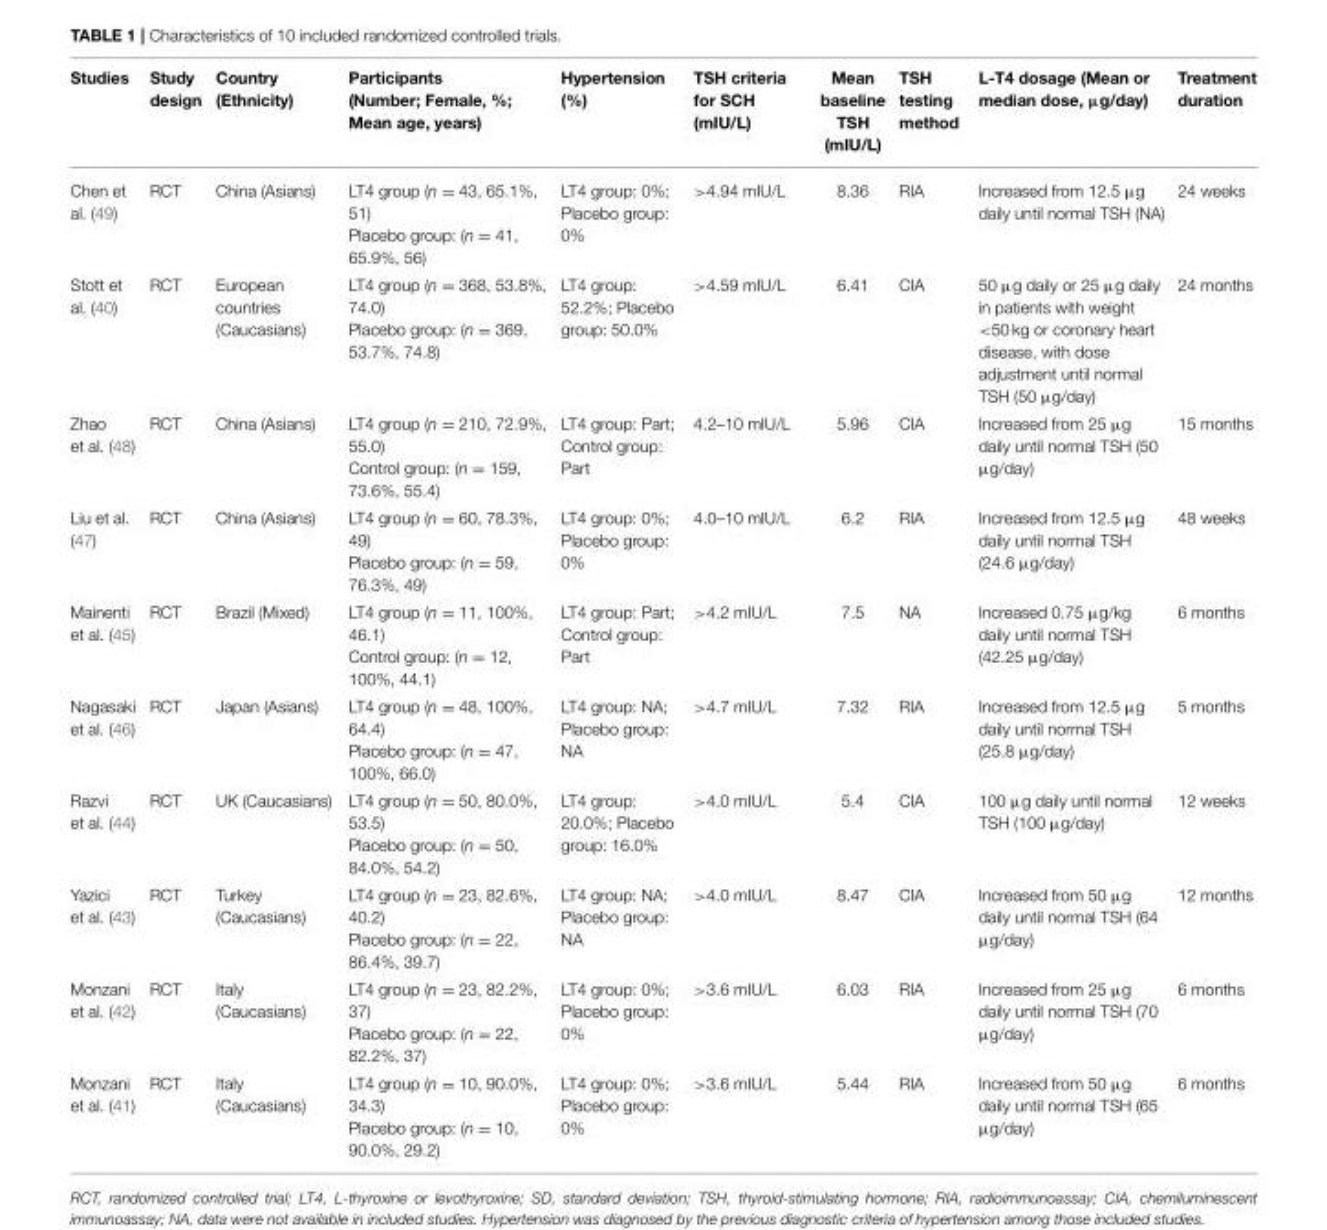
<table><thead><tr><td>Studies</td><td>Study design</td><td>Country (Ethnicity)</td><td>Participants (Number; Female, %; Mean age, years)</td><td>Hypertension (%)</td><td>TSH criteria for SCH (mIU/L)</td><td>Mean baseline TSH (mIU/L)</td><td>TSH testing method</td><td>L-T4 dosage (Mean or median dose, µg/day)</td><td>Treatment duration</td></tr></thead><tbody><tr><td>Chen et al. (49)</td><td>RCT</td><td>China (Asians)</td><td>LT4 group (n = 43, 65.1%, 51) Placebo group: (n = 41, 65.9%, 56)</td><td>LT4 group: 0%; Placebo group: 0%</td><td>&gt;4.94 mIU/L</td><td>8.36</td><td>RIA</td><td>Increased from 12.5 µg daily until normal TSH (NA)</td><td>24 weeks</td></tr><tr><td>Stott et al. (40)</td><td>RCT</td><td>European countries (Caucasians)</td><td>LT4 group (n = 368, 53.8%, 74.0) Placebo group: (n = 369, 53.7%, 74.8)</td><td>LT4 group: 52.2%; Placebo group: 50.0%</td><td>&gt;4.59 mIU/L</td><td>6.41</td><td>CIA</td><td>50 µg daily or 25 µg daily in patients with weight &lt;50 kg or coronary heart disease, with dose adjustment until normal TSH (50 µg/day)</td><td>24 months</td></tr><tr><td>Zhao et al. (48)</td><td>RCT</td><td>China (Asians)</td><td>LT4 group (n = 210, 72.9%, 55.0) Control group: (n = 159, 73.6%, 55.4)</td><td>LT4 group: Part; Control group: Part</td><td>4.2–10 mIU/L</td><td>5.96</td><td>CIA</td><td>Increased from 25 µg daily until normal TSH (50 µg/day)</td><td>15 months</td></tr><tr><td>Liu et al. (47)</td><td>RCT</td><td>China (Asians)</td><td>LT4 group (n = 60, 78.3%, 49) Placebo group: (n = 59, 76.3%, 49)</td><td>LT4 group: 0%; Placebo group: 0%</td><td>4.0–10 mIU/L</td><td>6.2</td><td>RIA</td><td>Increased from 12.5 µg daily until normal TSH (24.6 µg/day)</td><td>48 weeks</td></tr><tr><td>Mainenti et al. (45)</td><td>RCT</td><td>Brazil (Mixed)</td><td>LT4 group (n = 11, 100%, 46.1) Control group: (n = 12, 100%, 44.1)</td><td>LT4 group: Part; Control group: Part</td><td>&gt;4.2 mIU/L</td><td>7.5</td><td>NA</td><td>Increased 0.75 µg/kg daily until normal TSH (42.25 µg/day)</td><td>6 months</td></tr><tr><td>Nagasaki et al. (46)</td><td>RCT</td><td>Japan (Asians)</td><td>LT4 group (n = 48, 100%, 64.4) Placebo group: (n = 47, 100%, 66.0)</td><td>LT4 group: NA; Placebo group: NA</td><td>&gt;4.7 mIU/L</td><td>7.32</td><td>RIA</td><td>Increased from 12.5 µg daily until normal TSH (25.8 µg/day)</td><td>5 months</td></tr><tr><td>Razvi et al. (44)</td><td>RCT</td><td>UK (Caucasians)</td><td>LT4 group (n = 50, 80.0%, 53.5) Placebo group: (n = 50, 84.0%, 54.2)</td><td>LT4 group: 20.0%; Placebo group: 16.0%</td><td>&gt;4.0 mIU/L</td><td>5.4</td><td>CIA</td><td>100 µg daily until normal TSH (100 µg/day)</td><td>12 weeks</td></tr><tr><td>Yazici et al. (43)</td><td>RCT</td><td>Turkey (Caucasians)</td><td>LT4 group (n = 23, 82.6%, 40.2) Placebo group: (n = 22, 86.4%, 39.7)</td><td>LT4 group: NA; Placebo group: NA</td><td>&gt;4.0 mIU/L</td><td>8.47</td><td>CIA</td><td>Increased from 50 µg daily until normal TSH (64 µg/day)</td><td>12 months</td></tr><tr><td>Monzani et al. (42)</td><td>RCT</td><td>Italy (Caucasians)</td><td>LT4 group (n = 23, 82.2%, 37) Placebo group: (n = 22, 82.2%, 37)</td><td>LT4 group: 0%; Placebo group: 0%</td><td>&gt;3.6 mIU/L</td><td>6.03</td><td>RIA</td><td>Increased from 25 µg daily until normal TSH (70 µg/day)</td><td>6 months</td></tr><tr><td>Monzani et al. (41)</td><td>RCT</td><td>Italy (Caucasians)</td><td>LT4 group (n = 10, 90.0%, 34.3) Placebo group: (n = 10, 90.0%, 29.2)</td><td>LT4 group: 0%; Placebo group: 0%</td><td>&gt;3.6 mIU/L</td><td>5.44</td><td>RIA</td><td>Increased from 50 µg daily until normal TSH (65 µg/day)</td><td>6 months</td></tr></tbody></table>